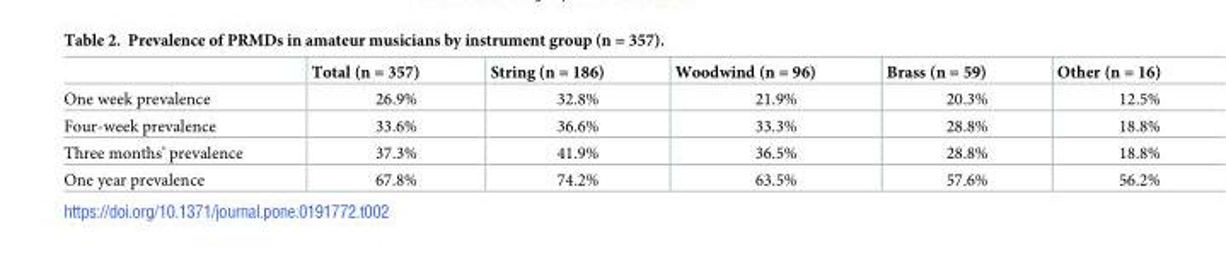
<table><thead><tr><td></td><td>Total (n = 357)</td><td>String (n = 186)</td><td>Woodwind (n = 96)</td><td>Brass (n = 59)</td><td>Other (n = 16)</td></tr></thead><tbody><tr><td>One week prevalence</td><td>26.9%</td><td>32.8%</td><td>21.9%</td><td>20.3%</td><td>12.5%</td></tr><tr><td>Four-week prevalence</td><td>33.6%</td><td>36.6%</td><td>33.3%</td><td>28.8%</td><td>18.8%</td></tr><tr><td>Three months’ prevalence</td><td>37.3%</td><td>41.9%</td><td>36.5%</td><td>28.8%</td><td>18.8%</td></tr><tr><td>One year prevalence</td><td>67.8%</td><td>74.2%</td><td>63.5%</td><td>57.6%</td><td>56.2%</td></tr></tbody></table>